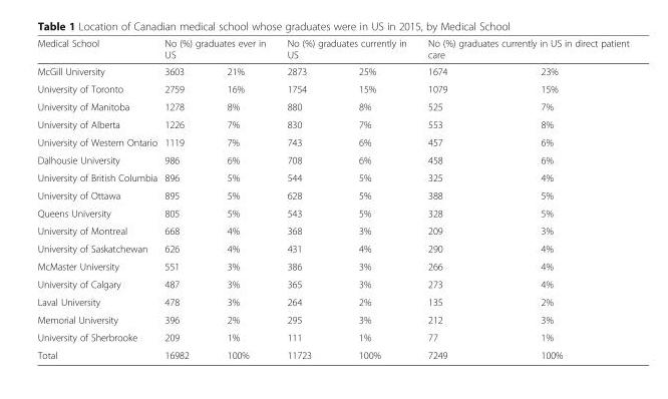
<table><thead><tr><td rowspan="2">Medical School McGill University</td><td colspan="2">No (%) graduates ever in US</td><td colspan="2">No (%) graduates currently in US</td><td colspan="2">No (%) graduates currently in US in direct patient care</td></tr><tr><td>3603</td><td>21%</td><td>2873</td><td>25%</td><td>1674</td><td>23%</td></tr></thead><tbody><tr><td>University of Toronto</td><td>2759</td><td>16%</td><td>1754</td><td>15%</td><td>1079</td><td>15%</td></tr><tr><td>University of Manitoba</td><td>1278</td><td>8%</td><td>880</td><td>8%</td><td>525</td><td>7%</td></tr><tr><td>University of Alberta</td><td>1226</td><td>7%</td><td>830</td><td>7%</td><td>553</td><td>8%</td></tr><tr><td>University of Western Ontario</td><td>1119</td><td>7%</td><td>743</td><td>6%</td><td>457</td><td>6%</td></tr><tr><td>Dalhousie University</td><td>986</td><td>6%</td><td>708</td><td>6%</td><td>458</td><td>6%</td></tr><tr><td>University of British Columbia</td><td>896</td><td>5%</td><td>544</td><td>5%</td><td>325</td><td>4%</td></tr><tr><td>University of Ottawa</td><td>895</td><td>5%</td><td>628</td><td>5%</td><td>388</td><td>5%</td></tr><tr><td>Queens University</td><td>805</td><td>5%</td><td>543</td><td>5%</td><td>328</td><td>5%</td></tr><tr><td>University of Montreal</td><td>668</td><td>4%</td><td>368</td><td>3%</td><td>209</td><td>3%</td></tr><tr><td>University of Saskatchewan</td><td>626</td><td>4%</td><td>431</td><td>4%</td><td>290</td><td>4%</td></tr><tr><td>McMaster University</td><td>551</td><td>3%</td><td>386</td><td>3%</td><td>266</td><td>4%</td></tr><tr><td>University of Calgary</td><td>487</td><td>3%</td><td>365</td><td>3%</td><td>273</td><td>4%</td></tr><tr><td>Laval University</td><td>478</td><td>3%</td><td>264</td><td>2%</td><td>135</td><td>2%</td></tr><tr><td>Memorial University</td><td>396</td><td>2%</td><td>295</td><td>3%</td><td>212</td><td>3%</td></tr><tr><td>University of Sherbrooke</td><td>209</td><td>1%</td><td>111</td><td>1%</td><td>77</td><td>1%</td></tr><tr><td>Total</td><td>16982</td><td>100%</td><td>11723</td><td>100%</td><td>7249</td><td>100%</td></tr></tbody></table>